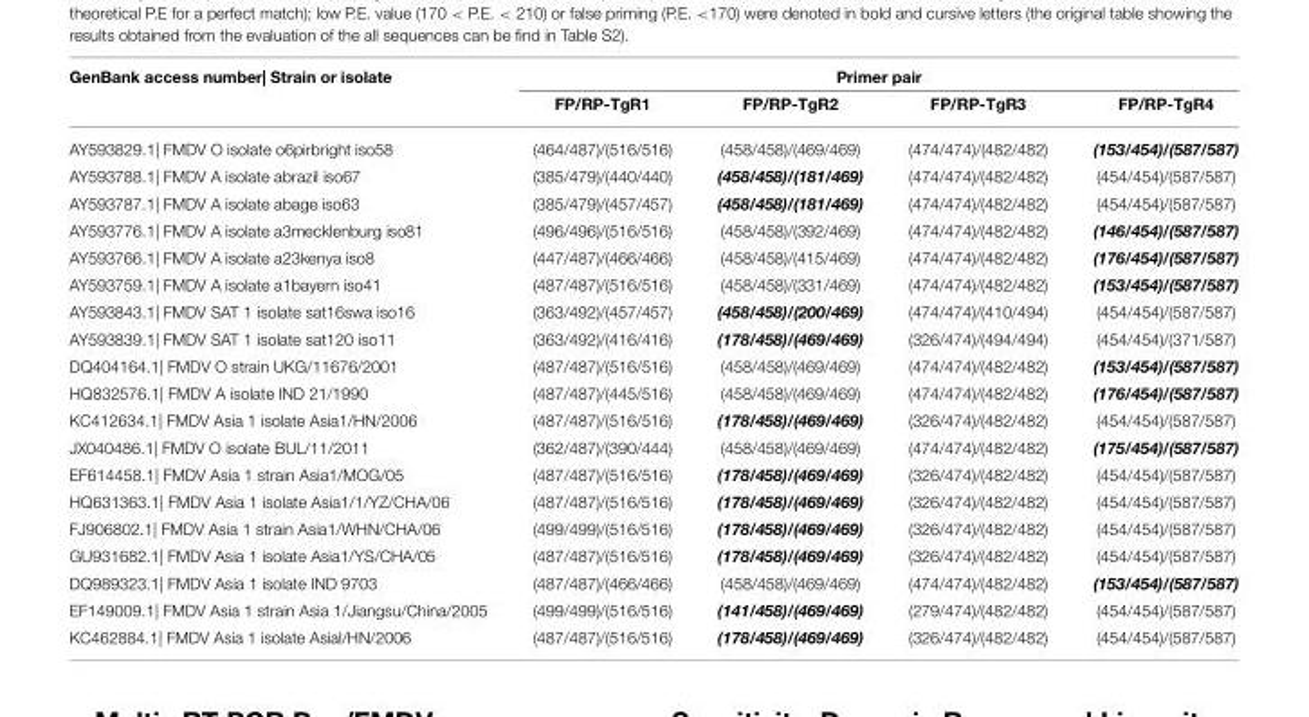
<table><thead><tr><td rowspan="2">GenBank access number| Strain or isolate</td><td colspan="4">Primer pair</td></tr><tr><td>FP/RP-TgR1</td><td>FP/RP-TgR2</td><td>FP/RP-TgR3</td><td>FP/RP-TgR4</td></tr></thead><tbody><tr><td>AY593829.1| FMDV O isolate o6pirbright iso58</td><td>(464/487)/(516/516)</td><td>(458/458)/(469/469)</td><td>(474/474)/(482/482)</td><td>(153/454)/(587/587)</td></tr><tr><td>AY593788.1| FMDV A isolate abrazil iso67</td><td>(385/479)/(440/440)</td><td>(458/458)/(181/469)</td><td>(474/474)/(482/482)</td><td>(454/454)/(587/587)</td></tr><tr><td>AY593787.1| FMDV A isolate abage iso63</td><td>(385/479)/(457/457)</td><td>(458/458)/(181/469)</td><td>(474/474)/(482/482)</td><td>(454/454)/(587/587)</td></tr><tr><td>AY593776.1| FMDV A isolate a3mecklenburg iso81</td><td>(496/496)/(516/516)</td><td>(458/458)/(392/469)</td><td>(474/474)/(482/482)</td><td>(146/454)/(587/587)</td></tr><tr><td>AY593766.1| FMDV A isolate a23kenya iso8</td><td>(447/487)/(466/466)</td><td>(458/458)/(415/469)</td><td>(474/474)/(482/482)</td><td>(176/454)/(587/587)</td></tr><tr><td>AY593759.1| FMDV A isolate a1bayern iso41</td><td>(487/487)/(516/516)</td><td>(458/458)/(331/469)</td><td>(474/474)/(482/482)</td><td>(153/454)/(587/587)</td></tr><tr><td>AY593843.1| FMDV SAT 1 isolate sat16swa iso16</td><td>(363/492)/(457/457)</td><td>(458/458)/(200/469)</td><td>(474/474)/(410/494)</td><td>(454/454)/(587/587)</td></tr><tr><td>AY593839.1| FMDV SAT 1 isolate sat120 iso11</td><td>(363/492)/(416/416)</td><td>(178/458)/(469/469)</td><td>(326/474)/(494/494)</td><td>(454/454)/(371/587)</td></tr><tr><td>DQ404164.1| FMDV O strain UKG/11676/2001</td><td>(487/487)/(516/516)</td><td>(458/458)/(469/469)</td><td>(474/474)/(482/482)</td><td>(153/454)/(587/587)</td></tr><tr><td>HQ832576.1| FMDV A isolate IND 21/1990</td><td>(487/487)/(445/516)</td><td>(458/458)/(469/469)</td><td>(474/474)/(482/482)</td><td>(176/454)/(587/587)</td></tr><tr><td>KC412634.1| FMDV Asia 1 isolate Asia1/HN/2006</td><td>(487/487)/(516/516)</td><td>(178/458)/(469/469)</td><td>(326/474)/(482/482)</td><td>(454/454)/(587/587)</td></tr><tr><td>JX040486.1| FMDV O isolate BUL/11/2011</td><td>(362/487)/(390/444)</td><td>(458/458)/(469/469)</td><td>(474/474)/(482/482)</td><td>(175/454)/(587/587)</td></tr><tr><td>EF614458.1| FMDV Asia 1 strain Asia1/MOG/05</td><td>(487/487)/(516/516)</td><td>(178/458)/(469/469)</td><td>(326/474)/(482/482)</td><td>(454/454)/(587/587)</td></tr><tr><td>HQ631363.1| FMDV Asia 1 isolate Asia1/1/YZ/CHA/06</td><td>(487/487)/(516/516)</td><td>(178/458)/(469/469)</td><td>(326/474)/(482/482)</td><td>(454/454)/(587/587)</td></tr><tr><td>FJ906802.1| FMDV Asia 1 strain Asia1/WHN/CHA/06</td><td>(499/499)/(516/516)</td><td>(178/458)/(469/469)</td><td>(326/474)/(482/482)</td><td>(454/454)/(587/587)</td></tr><tr><td>GU931682.1| FMDV Asia 1 isolate Asia1/YS/CHA/05</td><td>(487/487)/(516/516)</td><td>(178/458)/(469/469)</td><td>(326/474)/(482/482)</td><td>(454/454)/(587/587)</td></tr><tr><td>DQ989323.1| FMDV Asia 1 isolate IND 9703</td><td>(487/487)/(466/466)</td><td>(458/458)/(469/469)</td><td>(474/474)/(482/482)</td><td>(153/454)/(587/587)</td></tr><tr><td>EF149009.1| FMDV Asia 1 strain Asia 1/Jiangsu/China/2005</td><td>(499/499)/(516/516)</td><td>(141/458)/(469/469)</td><td>(279/474)/(482/482)</td><td>(454/454)/(587/587)</td></tr><tr><td>KC462884.1| FMDV Asia 1 isolate Asial/HN/2006</td><td>(487/487)/(516/516)</td><td>(178/458)/(469/469)</td><td>(326/474)/(482/482)</td><td>(454/454)/(587/587)</td></tr></tbody></table>